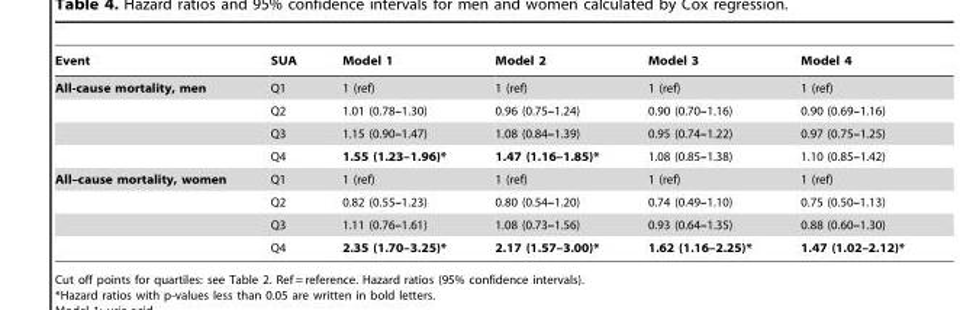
<table><thead><tr><td>Event</td><td>SUA</td><td>Model 1</td><td>Model 2</td><td>Model 3</td><td>Model 4</td></tr></thead><tbody><tr><td rowspan="4">All-cause mortality, men</td><td>Q1</td><td>1 (ref)</td><td>1 (ref)</td><td>1 (ref)</td><td>1 (ref)</td></tr><tr><td>Q2</td><td>1.01 (0.78–1.30)</td><td>0.96 (0.75–1.24)</td><td>0.90 (0.70–1.16)</td><td>0.90 (0.69–1.16)</td></tr><tr><td>Q3</td><td>1.15 (0.90–1.47)</td><td>1.08 (0.84–1.39)</td><td>0.95 (0.74–1.22)</td><td>0.97 (0.75–1.25)</td></tr><tr><td>Q4</td><td>1.55 (1.23–1.96)*</td><td>1.47 (1.16–1.85)*</td><td>1.08 (0.85–1.38)</td><td>1.10 (0.85–1.42)</td></tr><tr><td rowspan="4">All–cause mortality, women</td><td>Q1</td><td>1 (ref)</td><td>1 (ref)</td><td>1 (ref)</td><td>1 (ref)</td></tr><tr><td>Q2</td><td>0.82 (0.55–1.23)</td><td>0.80 (0.54–1.20)</td><td>0.74 (0.49–1.10)</td><td>0.75 (0.50–1.13)</td></tr><tr><td>Q3</td><td>1.11 (0.76–1.61)</td><td>1.08 (0.73–1.56)</td><td>0.93 (0.64–1.35)</td><td>0.88 (0.60–1.30)</td></tr><tr><td>Q4</td><td>2.35 (1.70–3.25)*</td><td>2.17 (1.57–3.00)*</td><td>1.62 (1.16–2.25)*</td><td>1.47 (1.02–2.12)*</td></tr></tbody></table>